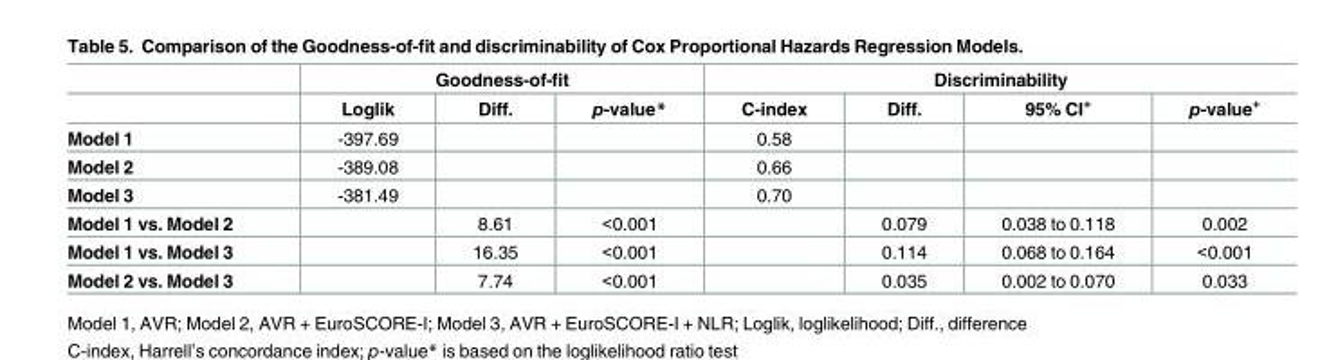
<table><thead><tr><td rowspan="2"></td><td colspan="3">Goodness-of-fit</td><td colspan="4">Discriminability</td></tr><tr><td>Loglik</td><td>Diff.</td><td>p-value*</td><td>C-index</td><td>Diff.</td><td>95% CI<sup>+</sup></td><td>p-value<sup>+</sup></td></tr></thead><tbody><tr><td>Model 1</td><td>-397.69</td><td></td><td></td><td>0.58</td><td></td><td></td><td></td></tr><tr><td>Model 2</td><td>-389.08</td><td></td><td></td><td>0.66</td><td></td><td></td><td></td></tr><tr><td>Model 3</td><td>-381.49</td><td></td><td></td><td>0.70</td><td></td><td></td><td></td></tr><tr><td>Model 1 vs. Model 2</td><td></td><td>8.61</td><td>&lt;0.001</td><td></td><td>0.079</td><td>0.038 to 0.118</td><td>0.002</td></tr><tr><td>Model 1 vs. Model 3</td><td></td><td>16.35</td><td>&lt;0.001</td><td></td><td>0.114</td><td>0.068 to 0.164</td><td>&lt;0.001</td></tr><tr><td>Model 2 vs. Model 3</td><td></td><td>7.74</td><td>&lt;0.001</td><td></td><td>0.035</td><td>0.002 to 0.070</td><td>0.033</td></tr></tbody></table>